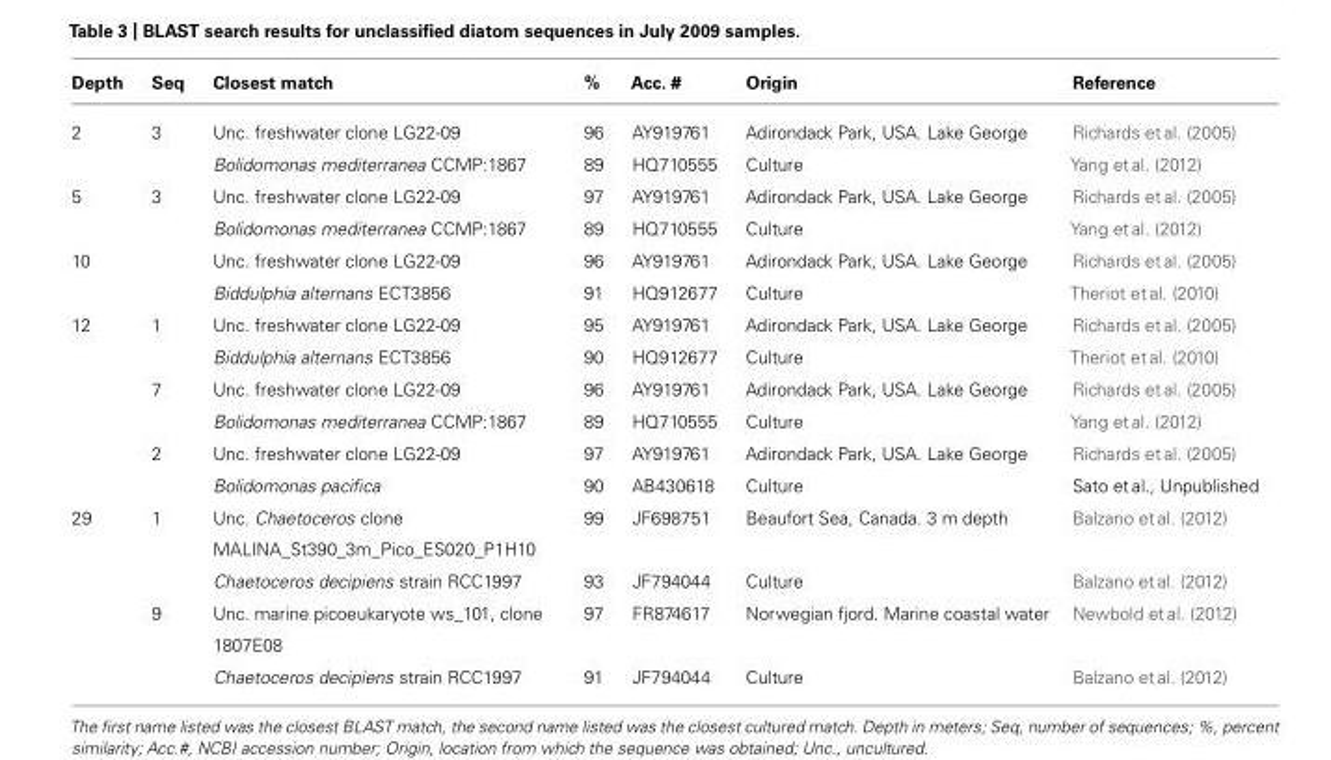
<table><thead><tr><td>Depth</td><td>Seq</td><td>Closest match</td><td>%</td><td>Acc. #</td><td>Origin</td><td>Reference</td></tr></thead><tbody><tr><td rowspan="2">2</td><td>3</td><td>Unc. freshwater clone LG22-09</td><td>96</td><td>AY919761</td><td>Adirondack Park, USA. Lake George</td><td>Richards et al. (2005)</td></tr><tr><td></td><td>Bolidomonas mediterranea CCMP:1867</td><td>89</td><td>HQ710555</td><td>Culture</td><td>Yang et al. (2012)</td></tr><tr><td rowspan="2">5</td><td>3</td><td>Unc. freshwater clone LG22-09</td><td>97</td><td>AY919761</td><td>Adirondack Park, USA. Lake George</td><td>Richards et al. (2005)</td></tr><tr><td></td><td>Bolidomonas mediterranea CCMP:1867</td><td>89</td><td>HQ710555</td><td>Culture</td><td>Yang et al. (2012)</td></tr><tr><td rowspan="2">10</td><td></td><td>Unc. freshwater clone LG22-09</td><td>96</td><td>AY919761</td><td>Adirondack Park, USA. Lake George</td><td>Richards et al. (2005)</td></tr><tr><td></td><td>Biddulphia alternans ECT3856</td><td>91</td><td>HQ912677</td><td>Culture</td><td>Theriot et al. (2010)</td></tr><tr><td rowspan="6">12</td><td>1</td><td>Unc. freshwater clone LG22-09</td><td>95</td><td>AY919761</td><td>Adirondack Park, USA. Lake George</td><td>Richards et al. (2005)</td></tr><tr><td></td><td>Biddulphia alternans ECT3856</td><td>90</td><td>HQ912677</td><td>Culture</td><td>Theriot et al. (2010)</td></tr><tr><td>7</td><td>Unc. freshwater clone LG22-09</td><td>96</td><td>AY919761</td><td>Adirondack Park, USA. Lake George</td><td>Richards et al. (2005)</td></tr><tr><td></td><td>Bolidomonas mediterranea CCMP:1867</td><td>89</td><td>HQ710555</td><td>Culture</td><td>Yang et al. (2012)</td></tr><tr><td>2</td><td>Unc. freshwater clone LG22-09</td><td>97</td><td>AY919761</td><td>Adirondack Park, USA. Lake George</td><td>Richards et al. (2005)</td></tr><tr><td></td><td>Bolidomonas pacifica</td><td>90</td><td>AB430618</td><td>Culture</td><td>Sato et al., Unpublished</td></tr><tr><td rowspan="4">29</td><td>1</td><td>Unc. Chaetoceros clone MALINA_St390_3m_Pico_ES020_P1H10</td><td>99</td><td>JF698751</td><td>Beaufort Sea, Canada. 3 m depth</td><td>Balzano et al. (2012)</td></tr><tr><td></td><td>Chaetoceros decipiens strain RCC1997</td><td>93</td><td>JF794044</td><td>Culture</td><td>Balzano et al. (2012)</td></tr><tr><td>9</td><td>Unc. marine picoeukaryote ws_101, clone 1807E08</td><td>97</td><td>FR874617</td><td>Norwegian fjord. Marine coastal water</td><td>Newbold et al. (2012)</td></tr><tr><td></td><td>Chaetoceros decipiens strain RCC1997</td><td>91</td><td>JF794044</td><td>Culture</td><td>Balzano et al. (2012)</td></tr></tbody></table>